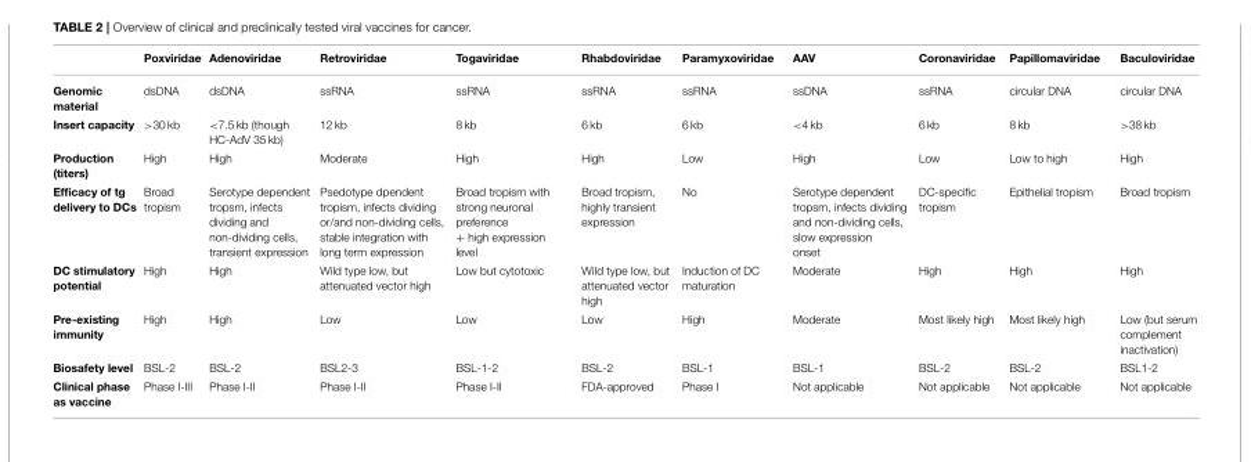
<table><thead><tr><td></td><td>Poxviridae</td><td>Adenoviridae</td><td>Retroviridae</td><td>Togaviridae</td><td>Rhabdoviridae</td><td>Paramyxoviridae</td><td>AAV</td><td>Coronaviridae</td><td>Papillomaviridae</td><td>Baculoviridae</td></tr></thead><tbody><tr><td>Genomic material</td><td>dsDNA</td><td>dsDNA</td><td>ssRNA</td><td>ssRNA</td><td>ssRNA</td><td>ssRNA</td><td>ssDNA</td><td>ssRNA</td><td>circular DNA</td><td>circular DNA</td></tr><tr><td>Insert capacity</td><td>&gt;30 kb</td><td>&lt;7.5 kb (though HC-AdV 35 kb)</td><td>12 kb</td><td>8 kb</td><td>6 kb</td><td>6 kb</td><td>&lt;4 kb</td><td>6 kb</td><td>8 kb</td><td>&gt;38 kb</td></tr><tr><td>Production (titers)</td><td>High</td><td>High</td><td>Moderate</td><td>High</td><td>High</td><td>Low</td><td>High</td><td>Low</td><td>Low to high</td><td>High</td></tr><tr><td>Efficacy of tg delivery to DCs</td><td>Broad tropism</td><td>Serotype dependent tropsm, infects dividing and non-dividing cells, transient expression</td><td>Psedotype dpendent tropism, infects dividing or/and non-dividing cells, stable integration with long term expression</td><td>Broad tropism with strong neuronal preference + high expression level</td><td>Broad tropism, highly transient expression</td><td>No</td><td>Serotype dependent tropsm, infects dividing and non-dividing cells, slow expression onset</td><td>DC-specific tropism</td><td>Epithelial tropism</td><td>Broad tropism</td></tr><tr><td>DC stimulatory potential</td><td>High</td><td>High</td><td>Wild type low, but attenuated vector high</td><td>Low but cytotoxic</td><td>Wild type low, but attenuated vector high</td><td>Induction of DC maturation</td><td>Moderate</td><td>High</td><td>High</td><td>High</td></tr><tr><td>Pre-existing immunity</td><td>High</td><td>High</td><td>Low</td><td>Low</td><td>Low</td><td>High</td><td>Moderate</td><td>Most likely high</td><td>Most likely high</td><td>Low (but serum complement inactivation)</td></tr><tr><td>Biosafety level</td><td>BSL-2</td><td>BSL-2</td><td>BSL2-3</td><td>BSL-1-2</td><td>BSL-2</td><td>BSL-1</td><td>BSL-1</td><td>BSL-2</td><td>BSL-2</td><td>BSL1-2</td></tr><tr><td>Clinical phase as vaccine</td><td>Phase I-III</td><td>Phase I-II</td><td>Phase I-II</td><td>Phase I-II</td><td>FDA-approved</td><td>Phase I</td><td>Not applicable</td><td>Not applicable</td><td>Not applicable</td><td>Not applicable</td></tr></tbody></table>